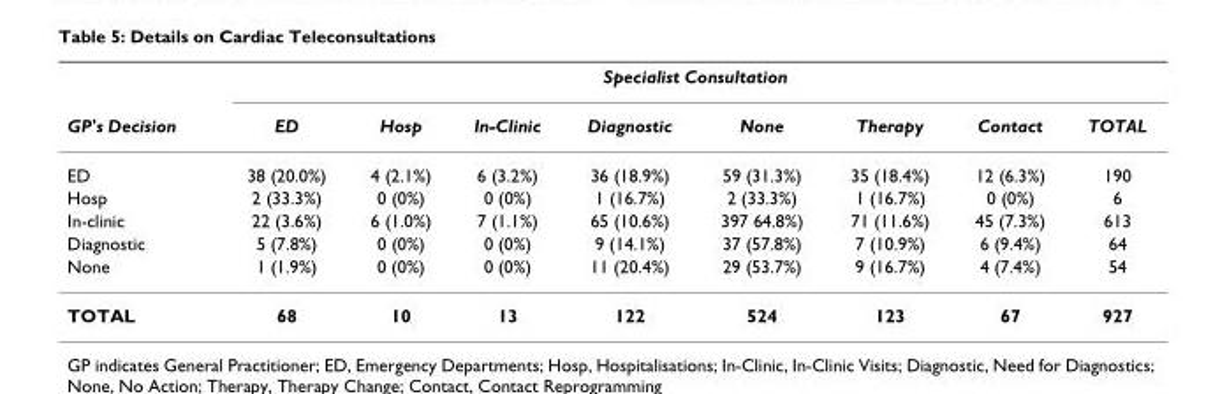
<table><thead><tr><td rowspan="2">GP&#x27;s Decision</td><td colspan="8">Specialist Consultation</td></tr><tr><td>ED</td><td>Hosp</td><td>In-Clinic</td><td>Diagnostic</td><td>None</td><td>Therapy</td><td>Contact</td><td>TOTAL</td></tr></thead><tbody><tr><td>ED</td><td>38 (20.0%)</td><td>4 (2.1%)</td><td>6 (3.2%)</td><td>36 (18.9%)</td><td>59 (31.3%)</td><td>35 (18.4%)</td><td>12 (6.3%)</td><td>190</td></tr><tr><td>Hosp</td><td>2 (33.3%)</td><td>0 (0%)</td><td>0 (0%)</td><td>1 (16.7%)</td><td>2 (33.3%)</td><td>1 (16.7%)</td><td>0 (0%)</td><td>6</td></tr><tr><td>In-clinic</td><td>22 (3.6%)</td><td>6 (1.0%)</td><td>7 (1.1%)</td><td>65 (10.6%)</td><td>397 64.8%)</td><td>71 (11.6%)</td><td>45 (7.3%)</td><td>613</td></tr><tr><td>Diagnostic</td><td>5 (7.8%)</td><td>0 (0%)</td><td>0 (0%)</td><td>9 (14.1%)</td><td>37 (57.8%)</td><td>7 (10.9%)</td><td>6 (9.4%)</td><td>64</td></tr><tr><td>None</td><td>1 (1.9%)</td><td>0 (0%)</td><td>0 (0%)</td><td>11 (20.4%)</td><td>29 (53.7%)</td><td>9 (16.7%)</td><td>4 (7.4%)</td><td>54</td></tr><tr><td>TOTAL</td><td>68</td><td>10</td><td>13</td><td>122</td><td>524</td><td>123</td><td>67</td><td>927</td></tr></tbody></table>